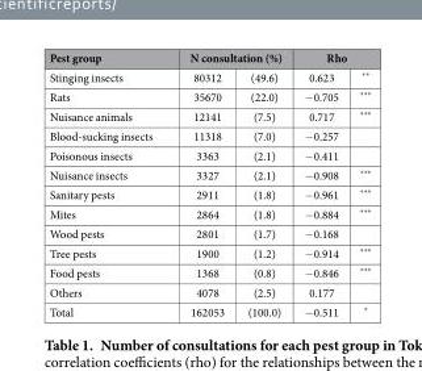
<table><thead><tr><td rowspan="2">Pest group Stinging insects</td><td colspan="2">N consultation (%)</td><td colspan="2">Rho</td></tr><tr><td>80312</td><td>(49.6)</td><td>0.623</td><td>**</td></tr></thead><tbody><tr><td>Rats</td><td>35670</td><td>(22.0)</td><td>− 0.705</td><td>***</td></tr><tr><td>Nuisance animals</td><td>12141</td><td>(7.5)</td><td>0.717</td><td>***</td></tr><tr><td>Blood-sucking insects</td><td>11318</td><td>(7.0)</td><td>− 0.257</td><td></td></tr><tr><td>Poisonous insects</td><td>3363</td><td>(2.1)</td><td>− 0.411</td><td></td></tr><tr><td>Nuisance insects</td><td>3327</td><td>(2.1)</td><td>− 0.908</td><td>***</td></tr><tr><td>Sanitary pests</td><td>2911</td><td>(1.8)</td><td>− 0.961</td><td>***</td></tr><tr><td>Mites</td><td>2864</td><td>(1.8)</td><td>− 0.884</td><td>***</td></tr><tr><td>Wood pests</td><td>2801</td><td>(1.7)</td><td>− 0.168</td><td></td></tr><tr><td>Tree pests</td><td>1900</td><td>(1.2)</td><td>− 0.914</td><td>***</td></tr><tr><td>Food pests</td><td>1368</td><td>(0.8)</td><td>− 0.846</td><td>***</td></tr><tr><td>Others</td><td>4078</td><td>(2.5)</td><td>0.177</td><td></td></tr><tr><td>Total</td><td>162053</td><td>(100.0)</td><td>− 0.511</td><td>*</td></tr></tbody></table>